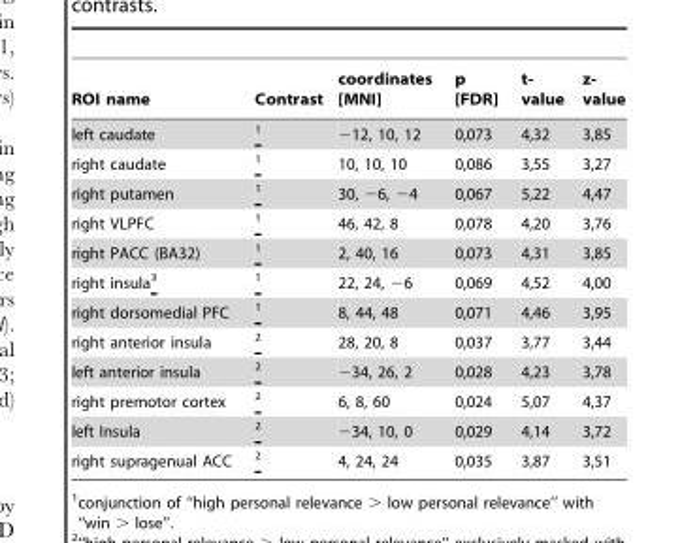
<table><thead><tr><td>ROI name</td><td>Contrast</td><td>coordinates [MNI]</td><td>p [FDR]</td><td>t- value</td><td>z- value</td></tr></thead><tbody><tr><td>left caudate</td><td>1</td><td>−12, 10, 12</td><td>0,073</td><td>4,32</td><td>3,85</td></tr><tr><td>right caudate</td><td>1</td><td>10, 10, 10</td><td>0,086</td><td>3,55</td><td>3,27</td></tr><tr><td>right putamen</td><td>1</td><td>30, −6, −4</td><td>0,067</td><td>5,22</td><td>4,47</td></tr><tr><td>right VLPFC</td><td>1</td><td>46, 42, 8</td><td>0,078</td><td>4,20</td><td>3,76</td></tr><tr><td>right PACC (BA32)</td><td>1</td><td>2, 40, 16</td><td>0,073</td><td>4,31</td><td>3,85</td></tr><tr><td>right insula<sup>3</sup></td><td>1</td><td>22, 24, −6</td><td>0,069</td><td>4,52</td><td>4,00</td></tr><tr><td>right dorsomedial PFC</td><td>1</td><td>8, 44, 48</td><td>0,071</td><td>4,46</td><td>3,95</td></tr><tr><td>right anterior insula</td><td>2</td><td>28, 20, 8</td><td>0,037</td><td>3,77</td><td>3,44</td></tr><tr><td>left anterior insula</td><td>2</td><td>−34, 26, 2</td><td>0,028</td><td>4,23</td><td>3,78</td></tr><tr><td>right premotor cortex</td><td>2</td><td>6, 8, 60</td><td>0,024</td><td>5,07</td><td>4,37</td></tr><tr><td>left Insula</td><td>2</td><td>−34, 10, 0</td><td>0,029</td><td>4,14</td><td>3,72</td></tr><tr><td>right supragenual ACC</td><td>2</td><td>4, 24, 24</td><td>0,035</td><td>3,87</td><td>3,51</td></tr></tbody></table>